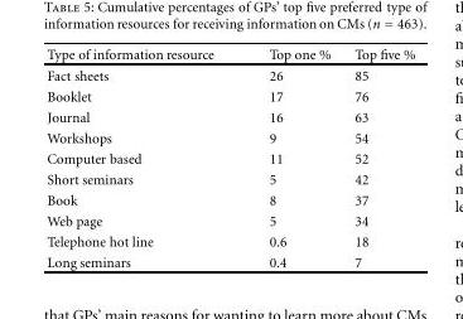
<table><thead><tr><td>Type of information resource</td><td>Top one %</td><td>Top five %</td></tr></thead><tbody><tr><td>Fact sheets</td><td>26</td><td>85</td></tr><tr><td>Booklet</td><td>17</td><td>76</td></tr><tr><td>Journal</td><td>16</td><td>63</td></tr><tr><td>Workshops</td><td>9</td><td>54</td></tr><tr><td>Computer based</td><td>11</td><td>52</td></tr><tr><td>Short seminars</td><td>5</td><td>42</td></tr><tr><td>Book</td><td>8</td><td>37</td></tr><tr><td>Web page</td><td>5</td><td>34</td></tr><tr><td>Telephone hot line</td><td>0.6</td><td>18</td></tr><tr><td>Long seminars</td><td>0.4</td><td>7</td></tr></tbody></table>